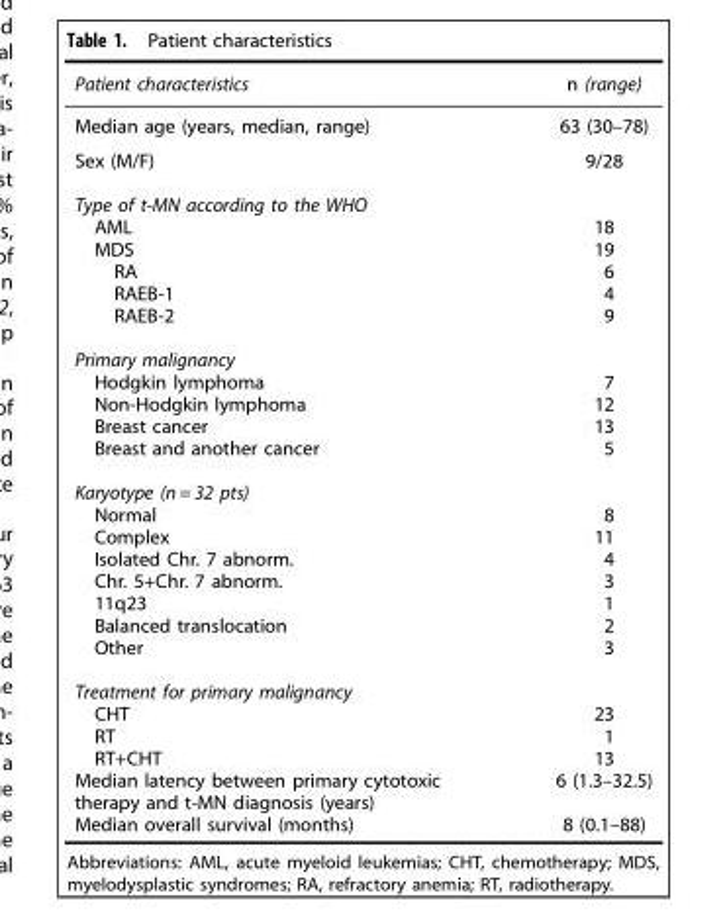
<table><thead><tr><td>Patient characteristics</td><td>n (range)</td></tr></thead><tbody><tr><td>Median age (years, median, range)</td><td>63 (30–78)</td></tr><tr><td>Sex (M/F)</td><td>9/28</td></tr><tr><td colspan="2">Type of t-MN according to the WHO</td></tr><tr><td>AML</td><td>18</td></tr><tr><td>MDS</td><td>19</td></tr><tr><td>RA</td><td>6</td></tr><tr><td>RAEB-1</td><td>4</td></tr><tr><td>RAEB-2</td><td>9</td></tr><tr><td colspan="2">Primary malignancy</td></tr><tr><td>Hodgkin lymphoma</td><td>7</td></tr><tr><td>Non-Hodgkin lymphoma</td><td>12</td></tr><tr><td>Breast cancer</td><td>13</td></tr><tr><td>Breast and another cancer</td><td>5</td></tr><tr><td colspan="2">Karyotype (n = 32 pts)</td></tr><tr><td>Normal</td><td>8</td></tr><tr><td>Complex</td><td>11</td></tr><tr><td>Isolated Chr. 7 abnorm.</td><td>4</td></tr><tr><td>Chr. 5+Chr. 7 abnorm.</td><td>3</td></tr><tr><td>11q23</td><td>1</td></tr><tr><td>Balanced translocation</td><td>2</td></tr><tr><td>Other</td><td>3</td></tr><tr><td colspan="2">Treatment for primary malignancy</td></tr><tr><td>CHT</td><td>23</td></tr><tr><td>RT</td><td>1</td></tr><tr><td>RT+CHT</td><td>13</td></tr><tr><td>Median latency between primary cytotoxic therapy and t-MN diagnosis (years)</td><td>6 (1.3–32.5)</td></tr><tr><td>Median overall survival (months)</td><td>8 (0.1–88)</td></tr></tbody></table>